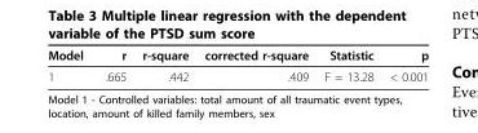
<table><thead><tr><td>Model</td><td>r</td><td>r-square</td><td>corrected r-square</td><td>Statistic</td><td>p</td></tr></thead><tbody><tr><td>1</td><td>.665</td><td>.442</td><td>.409</td><td>F = 13.28</td><td>&lt; 0.001</td></tr></tbody></table>